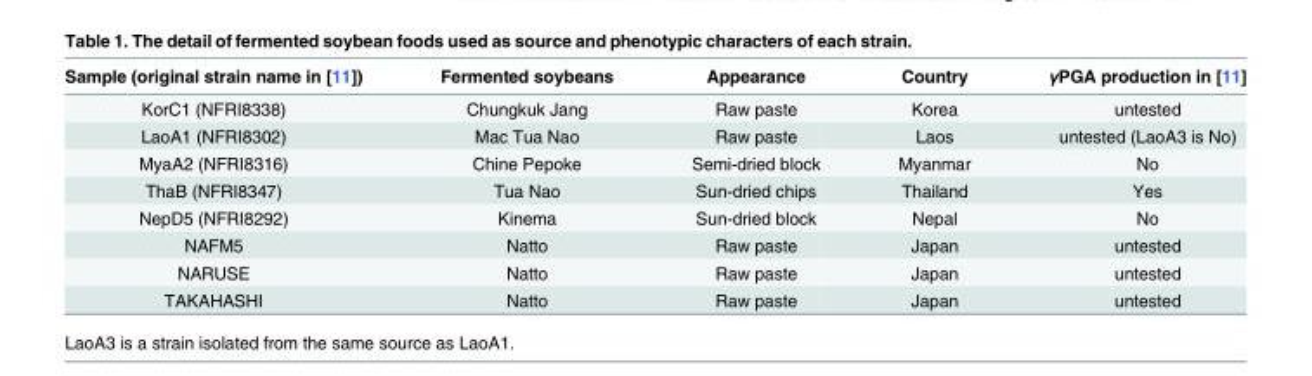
<table><thead><tr><td>Sample (original strain name in [11])</td><td>Fermented soybeans</td><td>Appearance</td><td>Country</td><td>γPGA production in [11]</td></tr></thead><tbody><tr><td>KorC1 (NFRI8338)</td><td>Chungkuk Jang</td><td>Raw paste</td><td>Korea</td><td>untested</td></tr><tr><td>LaoA1 (NFRI8302)</td><td>Mac Tua Nao</td><td>Raw paste</td><td>Laos</td><td>untested (LaoA3 is No)</td></tr><tr><td>MyaA2 (NFRI8316)</td><td>Chine Pepoke</td><td>Semi-dried block</td><td>Myanmar</td><td>No</td></tr><tr><td>ThaB (NFRI8347)</td><td>Tua Nao</td><td>Sun-dried chips</td><td>Thailand</td><td>Yes</td></tr><tr><td>NepD5 (NFRI8292)</td><td>Kinema</td><td>Sun-dried block</td><td>Nepal</td><td>No</td></tr><tr><td>NAFM5</td><td>Natto</td><td>Raw paste</td><td>Japan</td><td>untested</td></tr><tr><td>NARUSE</td><td>Natto</td><td>Raw paste</td><td>Japan</td><td>untested</td></tr><tr><td>TAKAHASHI</td><td>Natto</td><td>Raw paste</td><td>Japan</td><td>untested</td></tr></tbody></table>